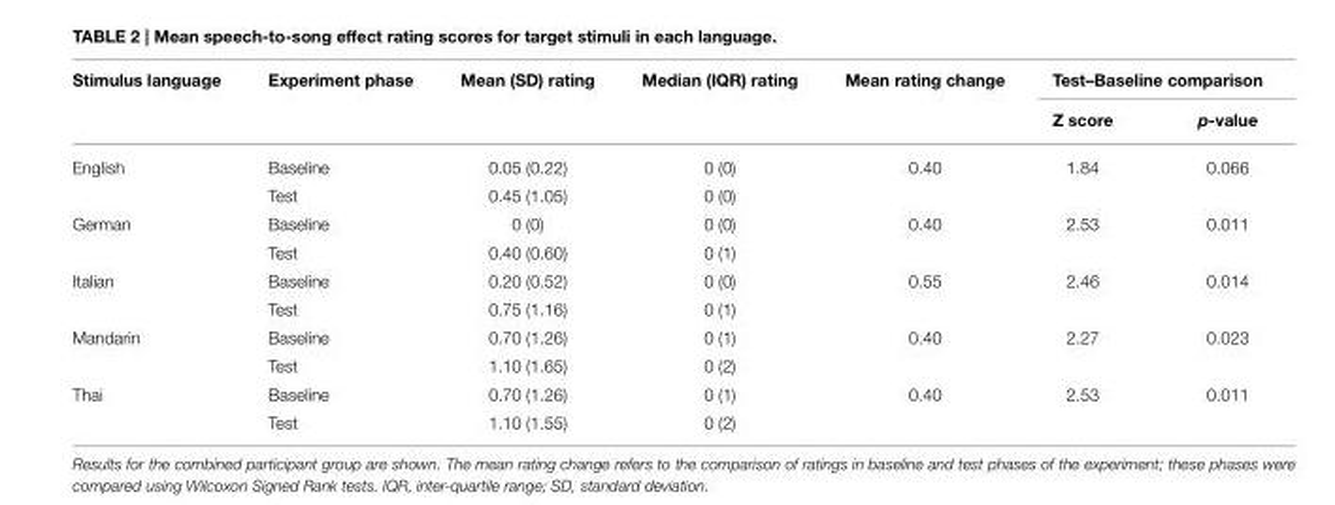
<table><thead><tr><td rowspan="2">Stimulus language</td><td rowspan="2">Experiment phase</td><td rowspan="2">Mean (SD) rating</td><td rowspan="2">Median (IQR) rating</td><td rowspan="2">Mean rating change</td><td colspan="2">Test–Baseline comparison</td></tr><tr><td>Z score</td><td>p-value</td></tr></thead><tbody><tr><td rowspan="2">English</td><td>Baseline</td><td>0.05 (0.22)</td><td>0 (0)</td><td>0.40</td><td>1.84</td><td>0.066</td></tr><tr><td>Test</td><td>0.45 (1.05)</td><td>0 (0)</td><td></td><td></td><td></td></tr><tr><td rowspan="2">German</td><td>Baseline</td><td>0 (0)</td><td>0 (0)</td><td>0.40</td><td>2.53</td><td>0.011</td></tr><tr><td>Test</td><td>0.40 (0.60)</td><td>0 (1)</td><td></td><td></td><td></td></tr><tr><td rowspan="2">Italian</td><td>Baseline</td><td>0.20 (0.52)</td><td>0 (0)</td><td>0.55</td><td>2.46</td><td>0.014</td></tr><tr><td>Test</td><td>0.75 (1.16)</td><td>0 (1)</td><td></td><td></td><td></td></tr><tr><td rowspan="2">Mandarin</td><td>Baseline</td><td>0.70 (1.26)</td><td>0 (1)</td><td>0.40</td><td>2.27</td><td>0.023</td></tr><tr><td>Test</td><td>1.10 (1.65)</td><td>0 (2)</td><td></td><td></td><td></td></tr><tr><td rowspan="2">Thai</td><td>Baseline</td><td>0.70 (1.26)</td><td>0 (1)</td><td>0.40</td><td>2.53</td><td>0.011</td></tr><tr><td>Test</td><td>1.10 (1.55)</td><td>0 (2)</td><td></td><td></td><td></td></tr></tbody></table>